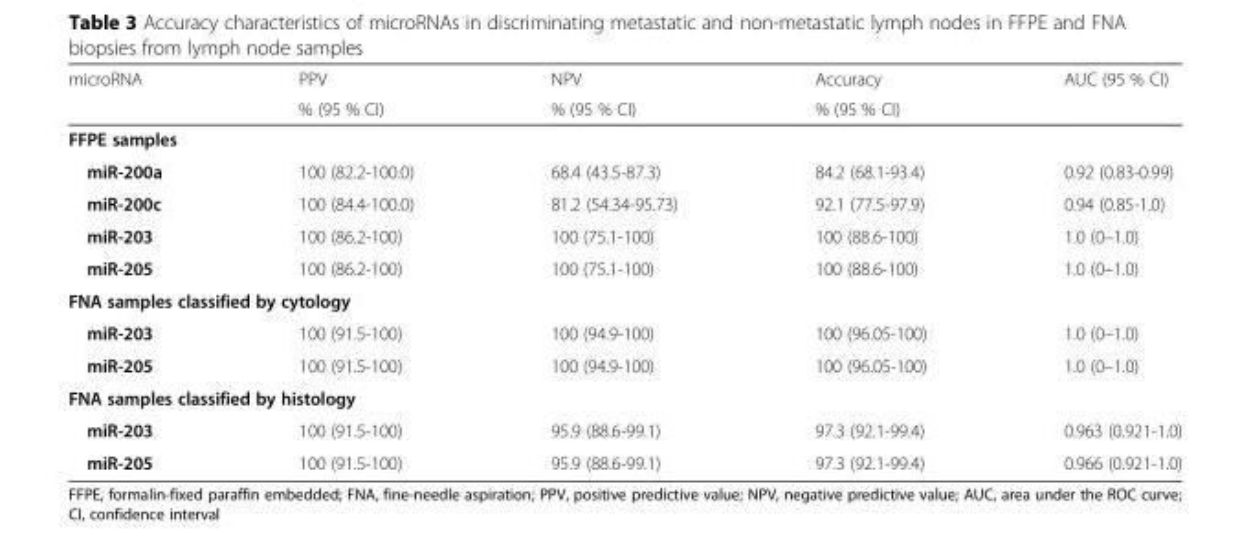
<table><thead><tr><td rowspan="2">microRNA</td><td rowspan="2">PPV % (95 % CI)</td><td rowspan="2">NPV % (95 % CI)</td><td rowspan="2">Accuracy % (95 % CI)</td><td rowspan="2">AUC (95 % CI)</td></tr><tr></tr></thead><tbody><tr><td colspan="5">FFPE samples</td></tr><tr><td>miR-200a</td><td>100 (82.2-100.0)</td><td>68.4 (43.5-87.3)</td><td>84.2 (68.1-93.4)</td><td>0.92 (0.83-0.99)</td></tr><tr><td>miR-200c</td><td>100 (84.4-100.0)</td><td>81.2 (54.34-95.73)</td><td>92.1 (77.5-97.9)</td><td>0.94 (0.85-1.0)</td></tr><tr><td>miR-203</td><td>100 (86.2-100)</td><td>100 (75.1-100)</td><td>100 (88.6-100)</td><td>1.0 (0–1.0)</td></tr><tr><td>miR-205</td><td>100 (86.2-100)</td><td>100 (75.1-100)</td><td>100 (88.6-100)</td><td>1.0 (0–1.0)</td></tr><tr><td colspan="5">FNA samples classified by cytology</td></tr><tr><td>miR-203</td><td>100 (91.5-100)</td><td>100 (94.9-100)</td><td>100 (96.05-100)</td><td>1.0 (0–1.0)</td></tr><tr><td>miR-205</td><td>100 (91.5-100)</td><td>100 (94.9-100)</td><td>100 (96.05-100)</td><td>1.0 (0–1.0)</td></tr><tr><td colspan="5">FNA samples classified by histology</td></tr><tr><td>miR-203</td><td>100 (91.5-100)</td><td>95.9 (88.6-99.1)</td><td>97.3 (92.1-99.4)</td><td>0.963 (0.921-1.0)</td></tr><tr><td>miR-205</td><td>100 (91.5-100)</td><td>95.9 (88.6-99.1)</td><td>97.3 (92.1-99.4)</td><td>0.966 (0.921-1.0)</td></tr></tbody></table>